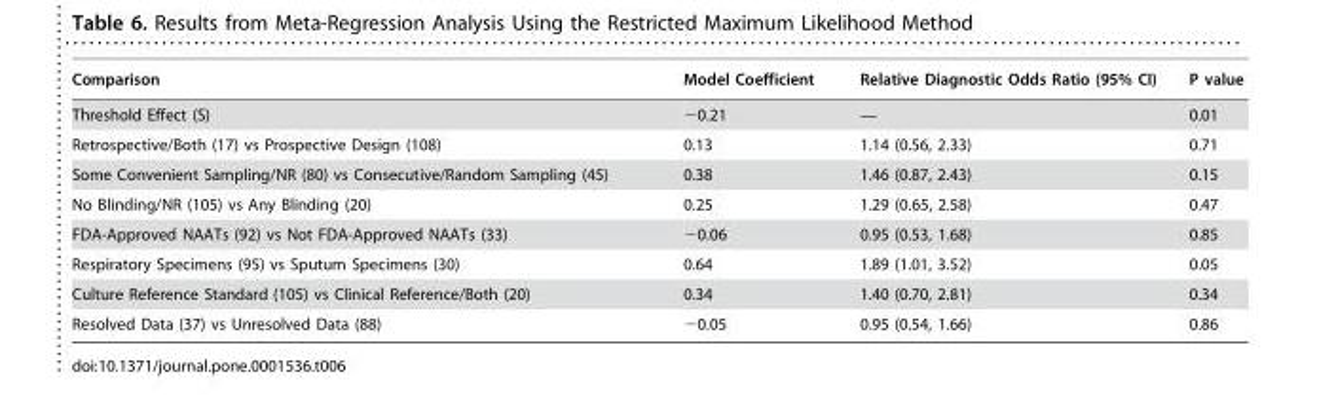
<table><thead><tr><td>Comparison</td><td>Model Coefficient</td><td>Relative Diagnostic Odds Ratio (95% CI)</td><td>P value</td></tr></thead><tbody><tr><td>Threshold Effect (S)</td><td>−0.21</td><td>—</td><td>0.01</td></tr><tr><td>Retrospective/Both (17) vs Prospective Design (108)</td><td>0.13</td><td>1.14 (0.56, 2.33)</td><td>0.71</td></tr><tr><td>Some Convenient Sampling/NR (80) vs Consecutive/Random Sampling (45)</td><td>0.38</td><td>1.46 (0.87, 2.43)</td><td>0.15</td></tr><tr><td>No Blinding/NR (105) vs Any Blinding (20)</td><td>0.25</td><td>1.29 (0.65, 2.58)</td><td>0.47</td></tr><tr><td>FDA-Approved NAATs (92) vs Not FDA-Approved NAATs (33)</td><td>−0.06</td><td>0.95 (0.53, 1.68)</td><td>0.85</td></tr><tr><td>Respiratory Specimens (95) vs Sputum Specimens (30)</td><td>0.64</td><td>1.89 (1.01, 3.52)</td><td>0.05</td></tr><tr><td>Culture Reference Standard (105) vs Clinical Reference/Both (20)</td><td>0.34</td><td>1.40 (0.70, 2.81)</td><td>0.34</td></tr><tr><td>Resolved Data (37) vs Unresolved Data (88)</td><td>−0.05</td><td>0.95 (0.54, 1.66)</td><td>0.86</td></tr></tbody></table>